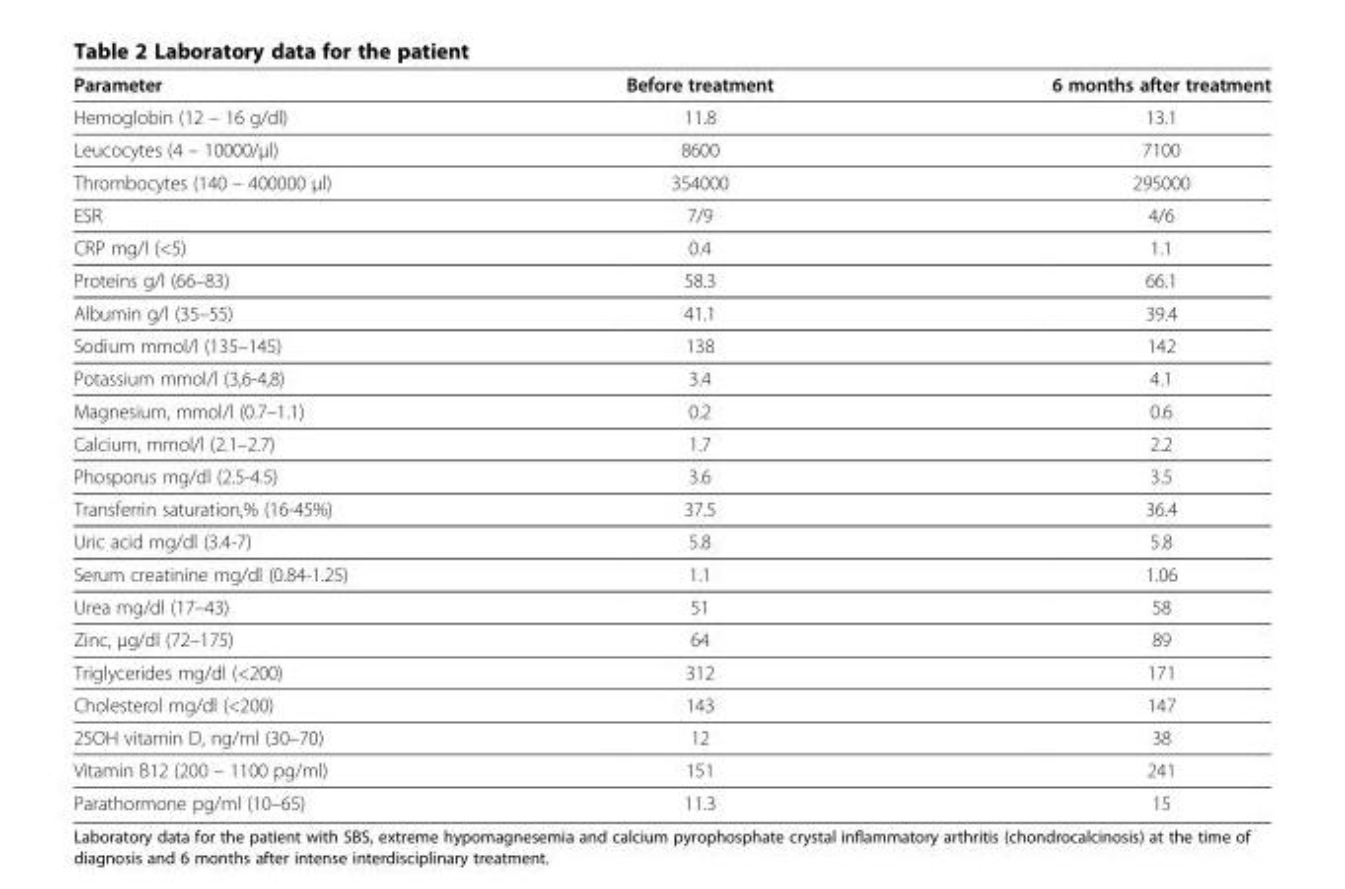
<table><thead><tr><td>Parameter</td><td>Before treatment</td><td>6 months after treatment</td></tr></thead><tbody><tr><td>Hemoglobin (12 – 16 g/dl)</td><td>11.8</td><td>13.1</td></tr><tr><td>Leucocytes (4 – 10000/μl)</td><td>8600</td><td>7100</td></tr><tr><td>Thrombocytes (140 – 400000 μl)</td><td>354000</td><td>295000</td></tr><tr><td>ESR</td><td>7/9</td><td>4/6</td></tr><tr><td>CRP mg/l (&lt;5)</td><td>0.4</td><td>1.1</td></tr><tr><td>Proteins g/l (66–83)</td><td>58.3</td><td>66.1</td></tr><tr><td>Albumin g/l (35–55)</td><td>41.1</td><td>39.4</td></tr><tr><td>Sodium mmol/l (135–145)</td><td>138</td><td>142</td></tr><tr><td>Potassium mmol/l (3,6-4,8)</td><td>3.4</td><td>4.1</td></tr><tr><td>Magnesium, mmol/l (0.7–1.1)</td><td>0.2</td><td>0.6</td></tr><tr><td>Calcium, mmol/l (2.1–2.7)</td><td>1.7</td><td>2.2</td></tr><tr><td>Phosporus mg/dl (2.5-4.5)</td><td>3.6</td><td>3.5</td></tr><tr><td>Transferrin saturation,% (16-45%)</td><td>37.5</td><td>36.4</td></tr><tr><td>Uric acid mg/dl (3.4-7)</td><td>5.8</td><td>5.8</td></tr><tr><td>Serum creatinine mg/dl (0.84-1.25)</td><td>1.1</td><td>1.06</td></tr><tr><td>Urea mg/dl (17–43)</td><td>51</td><td>58</td></tr><tr><td>Zinc, μg/dl (72–175)</td><td>64</td><td>89</td></tr><tr><td>Triglycerides mg/dl (&lt;200)</td><td>312</td><td>171</td></tr><tr><td>Cholesterol mg/dl (&lt;200)</td><td>143</td><td>147</td></tr><tr><td>25OH vitamin D, ng/ml (30–70)</td><td>12</td><td>38</td></tr><tr><td>Vitamin B12 (200 – 1100 pg/ml)</td><td>151</td><td>241</td></tr><tr><td>Parathormone pg/ml (10–65)</td><td>11.3</td><td>15</td></tr></tbody></table>